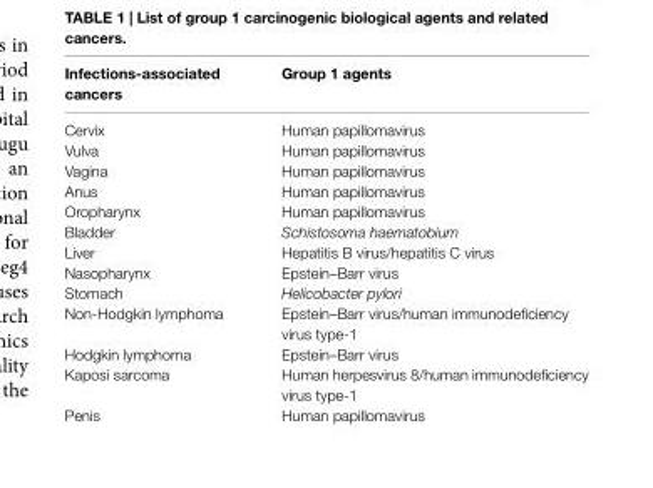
<table><thead><tr><td>infections-associated cancers</td><td>group 1 agents</td></tr></thead><tbody><tr><td>Cervix</td><td>Human papillomavirus</td></tr><tr><td>Vulva</td><td>Human papillomavirus</td></tr><tr><td>Vagina</td><td>Human papillomavirus</td></tr><tr><td>Anus</td><td>Human papillomavirus</td></tr><tr><td>Oropharynx</td><td>Human papillomavirus</td></tr><tr><td>Bladder</td><td>Schistosoma haematobium</td></tr><tr><td>Liver</td><td>Hepatitis B virus/hepatitis C virus</td></tr><tr><td>Nasopharynx</td><td>Epstein–Barr virus</td></tr><tr><td>Stomach</td><td>Helicobacter pylori</td></tr><tr><td>Non-Hodgkin lymphoma</td><td>Epstein–Barr virus/human immunodeficiency virus type-1</td></tr><tr><td>Hodgkin lymphoma</td><td>Epstein–Barr virus</td></tr><tr><td>Kaposi sarcoma</td><td>Human herpesvirus 8/human immunodeficiency virus type-1</td></tr><tr><td>Penis</td><td>Human papillomavirus</td></tr></tbody></table>